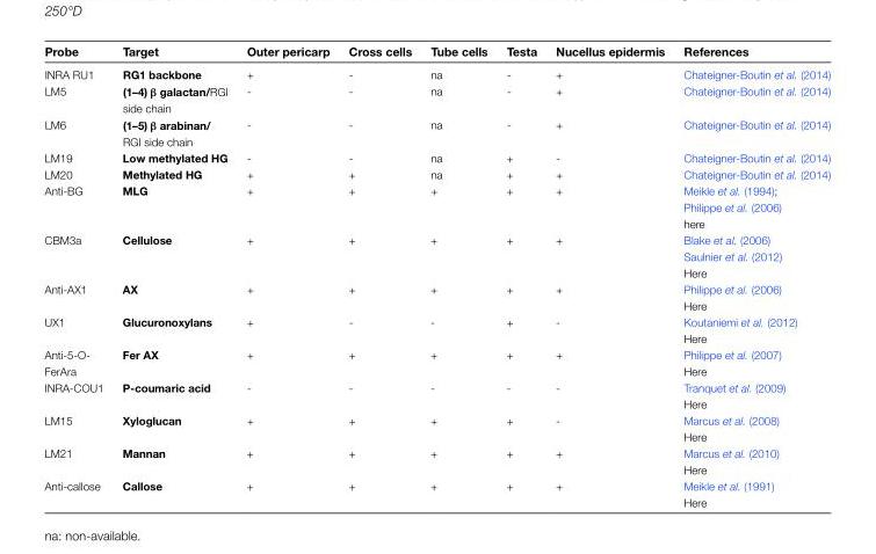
<table><thead><tr><td>Probe</td><td>Target</td><td>Outer pericarp</td><td>Cross cells</td><td>Tube cells</td><td>Testa</td><td>Nucellus epidermis</td><td>References</td></tr></thead><tbody><tr><td>INRA RU1</td><td>RG1 backbone</td><td>+</td><td>-</td><td>na</td><td>-</td><td>+</td><td>Chateigner-Boutin et al. (2014)</td></tr><tr><td>LM5</td><td>(1–4) β galactan/RGI side chain</td><td>-</td><td>-</td><td>na</td><td>-</td><td>+</td><td>Chateigner-Boutin et al. (2014)</td></tr><tr><td>LM6</td><td>(1–5) β arabinan/ RGI side chain</td><td>-</td><td>-</td><td>na</td><td>-</td><td>+</td><td>Chateigner-Boutin et al. (2014)</td></tr><tr><td>LM19</td><td>Low methylated HG</td><td>-</td><td>-</td><td>na</td><td>+</td><td>-</td><td>Chateigner-Boutin et al. (2014)</td></tr><tr><td>LM20</td><td>Methylated HG</td><td>+</td><td>+</td><td>na</td><td>+</td><td>+</td><td>Chateigner-Boutin et al. (2014)</td></tr><tr><td>Anti-BG</td><td>MLG</td><td>+</td><td>+</td><td>+</td><td>+</td><td>+</td><td>Meikle et al. (1994); Philippe et al. (2006) here</td></tr><tr><td>CBM3a</td><td>Cellulose</td><td>+</td><td>+</td><td>+</td><td>+</td><td>+</td><td>Blake et al. (2006) Saulnier et al. (2012) Here</td></tr><tr><td>Anti-AX1</td><td>AX</td><td>+</td><td>+</td><td>+</td><td>+</td><td>+</td><td>Philippe et al. (2006) Here</td></tr><tr><td>UX1</td><td>Glucuronoxylans</td><td>+</td><td>-</td><td>-</td><td>+</td><td>-</td><td>Koutaniemi et al. (2012) Here</td></tr><tr><td>Anti-5-O- FerAra</td><td>Fer AX</td><td>+</td><td>+</td><td>+</td><td>+</td><td>+</td><td>Philippe et al. (2007) Here</td></tr><tr><td>INRA-COU1</td><td>P-coumaric acid</td><td>-</td><td>-</td><td>-</td><td>-</td><td>-</td><td>Tranquet et al. (2009) Here</td></tr><tr><td>LM15</td><td>Xyloglucan</td><td>+</td><td>+</td><td>+</td><td>+</td><td>-</td><td>Marcus et al. (2008) Here</td></tr><tr><td>LM21</td><td>Mannan</td><td>+</td><td>+</td><td>+</td><td>+</td><td>+</td><td>Marcus et al. (2010) Here</td></tr><tr><td>Anti-callose</td><td>Callose</td><td>+</td><td>+</td><td>+</td><td>+</td><td>+</td><td>Meikle et al. (1991) Here</td></tr></tbody></table>